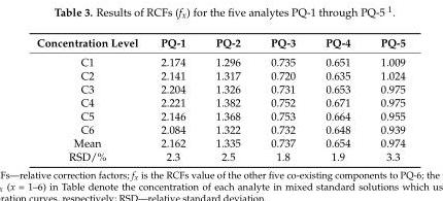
<table><thead><tr><td>Concentration Level</td><td>PQ-1</td><td>PQ-2</td><td>PQ-3</td><td>PQ-4</td><td>PQ-5</td></tr></thead><tbody><tr><td>C1</td><td>2.174</td><td>1.296</td><td>0.735</td><td>0.651</td><td>1.009</td></tr><tr><td>C2</td><td>2.141</td><td>1.317</td><td>0.720</td><td>0.635</td><td>1.024</td></tr><tr><td>C3</td><td>2.204</td><td>1.326</td><td>0.731</td><td>0.653</td><td>0.975</td></tr><tr><td>C4</td><td>2.221</td><td>1.382</td><td>0.752</td><td>0.671</td><td>0.975</td></tr><tr><td>C5</td><td>2.146</td><td>1.368</td><td>0.753</td><td>0.664</td><td>0.955</td></tr><tr><td>C6</td><td>2.084</td><td>1.322</td><td>0.732</td><td>0.648</td><td>0.939</td></tr><tr><td>Mean</td><td>2.162</td><td>1.335</td><td>0.737</td><td>0.654</td><td>0.974</td></tr><tr><td>RSD/%</td><td>2.3</td><td>2.5</td><td>1.8</td><td>1.9</td><td>3.3</td></tr></tbody></table>